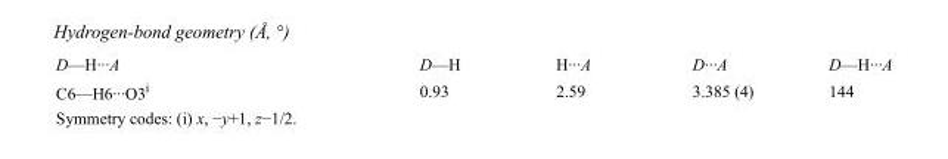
<table><tbody><tr><td>D—H···A</td><td>D—H</td><td>H···A</td><td>D···A</td><td>D—H···A</td></tr><tr><td>C6—H6···O3<sup>i</sup></td><td>0.93</td><td>2.59</td><td>3.385 (4)</td><td>144</td></tr></tbody></table>